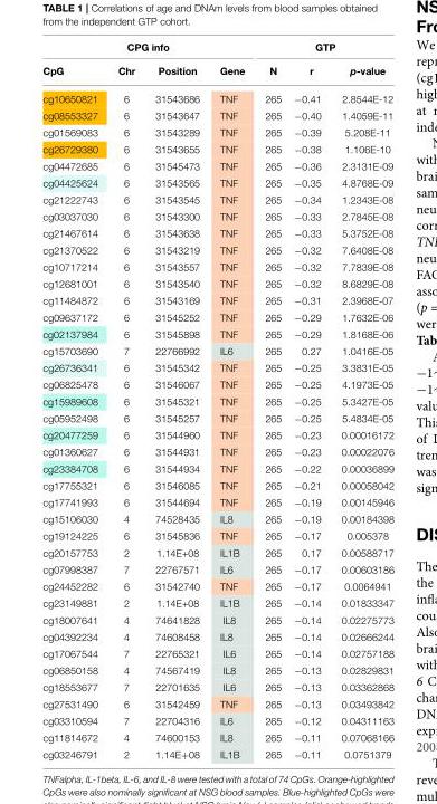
<table><thead><tr><td colspan="4">CPG info</td><td colspan="3">GTP</td></tr><tr><td>CpG</td><td>Chr</td><td>Position</td><td>Gene</td><td>N</td><td>r</td><td>p-value</td></tr></thead><tbody><tr><td>cg10650821</td><td>6</td><td>31543686</td><td>TNF</td><td>265</td><td>−0.41</td><td>2.8544E-12</td></tr><tr><td>cg08553327</td><td>6</td><td>31543647</td><td>TNF</td><td>265</td><td>−0.40</td><td>1.4059E-11</td></tr><tr><td>cg01569083</td><td>6</td><td>31543289</td><td>TNF</td><td>265</td><td>−0.39</td><td>5.208E-11</td></tr><tr><td>cg26729380</td><td>6</td><td>31543655</td><td>TNF</td><td>265</td><td>−0.38</td><td>1.106E-10</td></tr><tr><td>cg04472685</td><td>6</td><td>31545473</td><td>TNF</td><td>265</td><td>−0.36</td><td>2.3131E-09</td></tr><tr><td>cg04425624</td><td>6</td><td>31543565</td><td>TNF</td><td>265</td><td>−0.35</td><td>4.8768E-09</td></tr><tr><td>cg21222743</td><td>6</td><td>31543545</td><td>TNF</td><td>265</td><td>−0.34</td><td>1.2343E-08</td></tr><tr><td>cg03037030</td><td>6</td><td>31543300</td><td>TNF</td><td>265</td><td>−0.33</td><td>2.7845E-08</td></tr><tr><td>cg21467614</td><td>6</td><td>31543638</td><td>TNF</td><td>265</td><td>−0.33</td><td>5.3752E-08</td></tr><tr><td>cg21370522</td><td>6</td><td>31543219</td><td>TNF</td><td>265</td><td>−0.32</td><td>7.6408E-08</td></tr><tr><td>cg10717214</td><td>6</td><td>31543557</td><td>TNF</td><td>265</td><td>−0.32</td><td>7.7839E-08</td></tr><tr><td>cg12681001</td><td>6</td><td>31543540</td><td>TNF</td><td>265</td><td>−0.32</td><td>8.6829E-08</td></tr><tr><td>cg11484872</td><td>6</td><td>31543169</td><td>TNF</td><td>265</td><td>−0.31</td><td>2.3968E-07</td></tr><tr><td>cg09637172</td><td>6</td><td>31545252</td><td>TNF</td><td>265</td><td>−0.29</td><td>1.7632E-06</td></tr><tr><td>cg02137984</td><td>6</td><td>31545898</td><td>TNF</td><td>265</td><td>−0.29</td><td>1.8168E-06</td></tr><tr><td>cg15703690</td><td>7</td><td>22766992</td><td>IL6</td><td>265</td><td>0.27</td><td>1.0416E-05</td></tr><tr><td>cg26736341</td><td>6</td><td>31545342</td><td>TNF</td><td>265</td><td>−0.25</td><td>3.3831E-05</td></tr><tr><td>cg06825478</td><td>6</td><td>31546067</td><td>TNF</td><td>265</td><td>−0.25</td><td>4.1973E-05</td></tr><tr><td>cg15989608</td><td>6</td><td>31545321</td><td>TNF</td><td>265</td><td>−0.25</td><td>5.3427E-05</td></tr><tr><td>cg05952498</td><td>6</td><td>31545257</td><td>TNF</td><td>265</td><td>−0.25</td><td>5.4834E-05</td></tr><tr><td>cg20477259</td><td>6</td><td>31544960</td><td>TNF</td><td>265</td><td>−0.23</td><td>0.00016172</td></tr><tr><td>cg01360627</td><td>6</td><td>31544931</td><td>TNF</td><td>265</td><td>−0.23</td><td>0.00022076</td></tr><tr><td>cg23384708</td><td>6</td><td>31544934</td><td>TNF</td><td>265</td><td>−0.22</td><td>0.00036899</td></tr><tr><td>cg17755321</td><td>6</td><td>31546085</td><td>TNF</td><td>265</td><td>−0.21</td><td>0.00058042</td></tr><tr><td>cg17741993</td><td>6</td><td>31544694</td><td>TNF</td><td>265</td><td>−0.19</td><td>0.00145946</td></tr><tr><td>cg15106030</td><td>4</td><td>74528435</td><td>IL8</td><td>265</td><td>−0.19</td><td>0.00184398</td></tr><tr><td>cg19124225</td><td>6</td><td>31545836</td><td>TNF</td><td>265</td><td>−0.17</td><td>0.005378</td></tr><tr><td>cg20157753</td><td>2</td><td>1.14E+08</td><td>IL1B</td><td>265</td><td>0.17</td><td>0.00588717</td></tr><tr><td>cg07998387</td><td>7</td><td>22767571</td><td>IL6</td><td>265</td><td>−0.17</td><td>0.00603186</td></tr><tr><td>cg24452282</td><td>6</td><td>31542740</td><td>TNF</td><td>265</td><td>−0.17</td><td>0.0064941</td></tr><tr><td>cg23149881</td><td>2</td><td>1.14E+08</td><td>IL1B</td><td>265</td><td>−0.14</td><td>0.01833347</td></tr><tr><td>cg18007641</td><td>4</td><td>74641828</td><td>IL8</td><td>265</td><td>−0.14</td><td>0.02275773</td></tr><tr><td>cg04392234</td><td>4</td><td>74608458</td><td>IL8</td><td>265</td><td>−0.14</td><td>0.02666244</td></tr><tr><td>cg17067544</td><td>7</td><td>22765321</td><td>IL6</td><td>265</td><td>−0.14</td><td>0.02757188</td></tr><tr><td>cg06850158</td><td>4</td><td>74567419</td><td>IL8</td><td>265</td><td>−0.13</td><td>0.02829831</td></tr><tr><td>cg18553677</td><td>7</td><td>22701635</td><td>IL6</td><td>265</td><td>−0.13</td><td>0.03362868</td></tr><tr><td>cg27531490</td><td>6</td><td>31542459</td><td>TNF</td><td>265</td><td>−0.13</td><td>0.03493842</td></tr><tr><td>cg03310594</td><td>7</td><td>22704316</td><td>IL6</td><td>265</td><td>−0.12</td><td>0.04311163</td></tr><tr><td>cg11814672</td><td>4</td><td>74600153</td><td>IL8</td><td>265</td><td>−0.11</td><td>0.07068166</td></tr><tr><td>cg03246791</td><td>2</td><td>1.14E+08</td><td>IL1B</td><td>265</td><td>−0.11</td><td>0.0751379</td></tr></tbody></table>